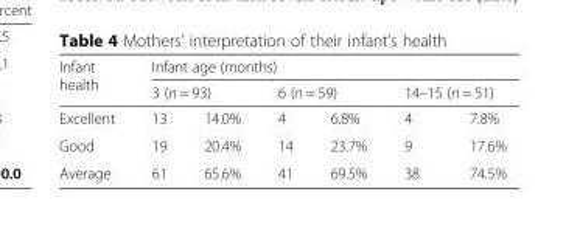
<table><thead><tr><td rowspan="3">Infant health Excellent</td><td colspan="6">Infant age (months)</td></tr><tr><td colspan="2">3 (n = 93)</td><td colspan="2">6 (n = 59)</td><td colspan="2">14–15 (n = 51)</td></tr><tr><td>13</td><td>14.0%</td><td>4</td><td>6.8%</td><td>4</td><td>7.8%</td></tr></thead><tbody><tr><td>Good</td><td>19</td><td>20.4%</td><td>14</td><td>23.7%</td><td>9</td><td>17.6%</td></tr><tr><td>Average</td><td>61</td><td>65.6%</td><td>41</td><td>69.5%</td><td>38</td><td>74.5%</td></tr></tbody></table>